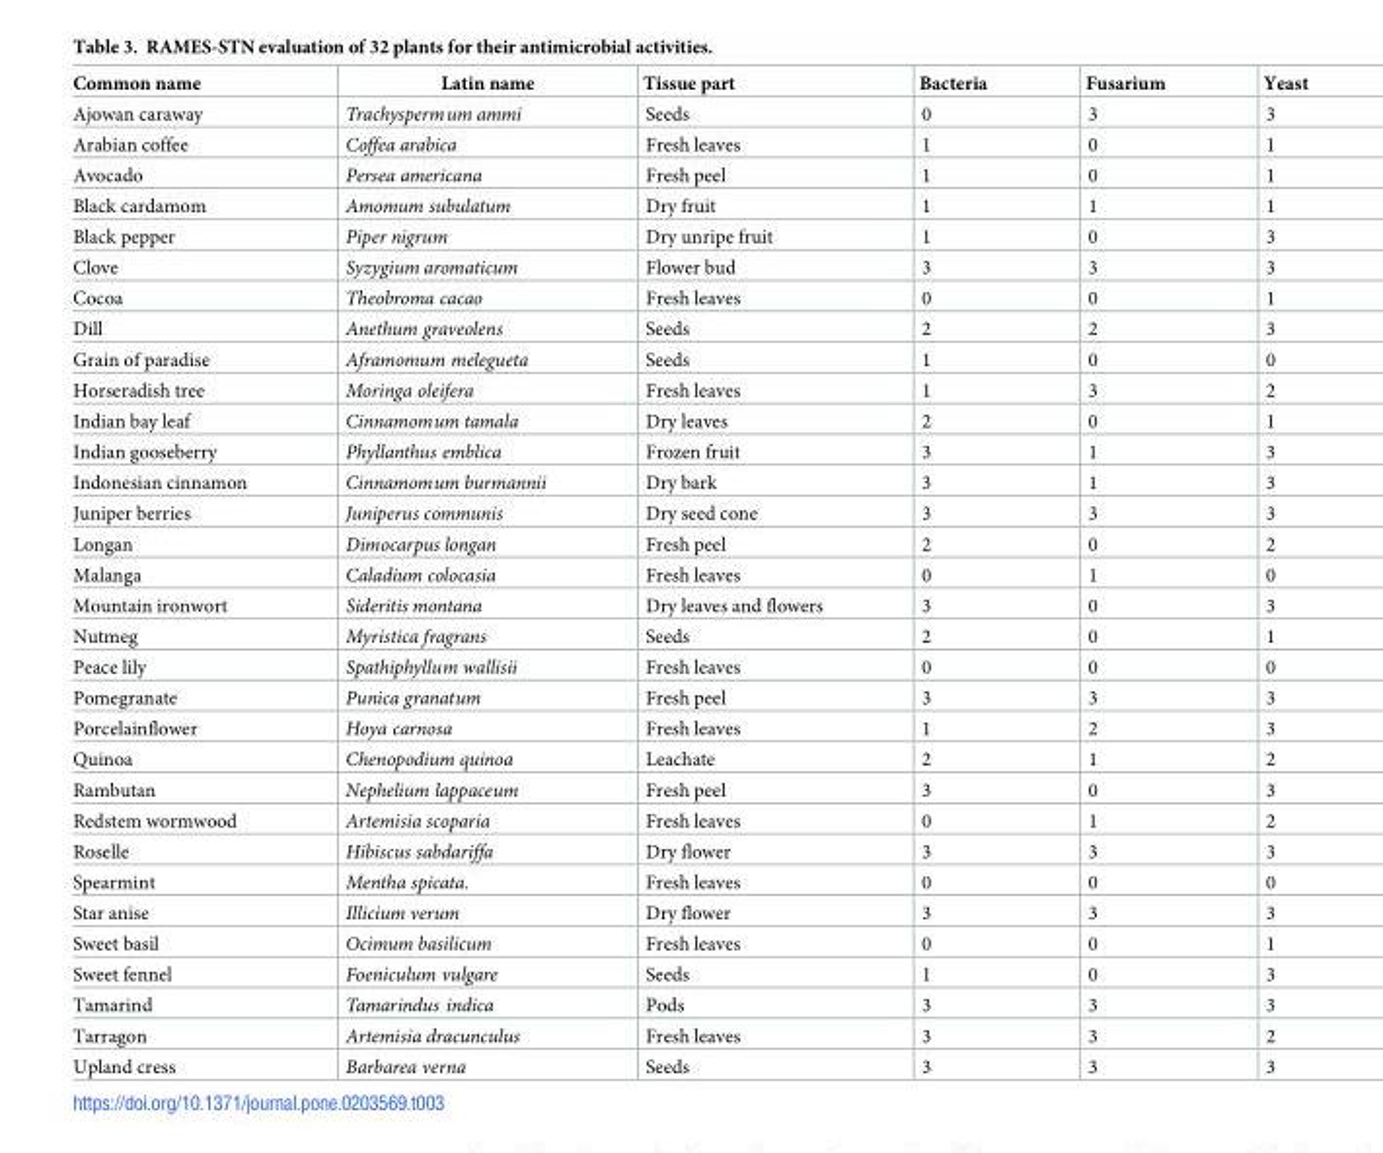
<table><thead><tr><td>Common name</td><td>Latin name</td><td>Tissue part</td><td>Bacteria</td><td>Fusarium</td><td>Yeast</td></tr></thead><tbody><tr><td>Ajowan caraway</td><td>Trachyspermum ammi</td><td>Seeds</td><td>0</td><td>3</td><td>3</td></tr><tr><td>Arabian coffee</td><td>Coffea arabica</td><td>Fresh leaves</td><td>1</td><td>0</td><td>1</td></tr><tr><td>Avocado</td><td>Persea americana</td><td>Fresh peel</td><td>1</td><td>0</td><td>1</td></tr><tr><td>Black cardamom</td><td>Amomum subulatum</td><td>Dry fruit</td><td>1</td><td>1</td><td>1</td></tr><tr><td>Black pepper</td><td>Piper nigrum</td><td>Dry unripe fruit</td><td>1</td><td>0</td><td>3</td></tr><tr><td>Clove</td><td>Syzygium aromaticum</td><td>Flower bud</td><td>3</td><td>3</td><td>3</td></tr><tr><td>Cocoa</td><td>Theobroma cacao</td><td>Fresh leaves</td><td>0</td><td>0</td><td>1</td></tr><tr><td>Dill</td><td>Anethum graveolens</td><td>Seeds</td><td>2</td><td>2</td><td>3</td></tr><tr><td>Grain of paradise</td><td>Aframomum melegueta</td><td>Seeds</td><td>1</td><td>0</td><td>0</td></tr><tr><td>Horseradish tree</td><td>Moringa oleifera</td><td>Fresh leaves</td><td>1</td><td>3</td><td>2</td></tr><tr><td>Indian bay leaf</td><td>Cinnamomum tamala</td><td>Dry leaves</td><td>2</td><td>0</td><td>1</td></tr><tr><td>Indian gooseberry</td><td>Phyllanthus emblica</td><td>Frozen fruit</td><td>3</td><td>1</td><td>3</td></tr><tr><td>Indonesian cinnamon</td><td>Cinnamomum burmannii</td><td>Dry bark</td><td>3</td><td>1</td><td>3</td></tr><tr><td>Juniper berries</td><td>Juniperus communis</td><td>Dry seed cone</td><td>3</td><td>3</td><td>3</td></tr><tr><td>Longan</td><td>Dimocarpus longan</td><td>Fresh peel</td><td>2</td><td>0</td><td>2</td></tr><tr><td>Malanga</td><td>Caladium colocasia</td><td>Fresh leaves</td><td>0</td><td>1</td><td>0</td></tr><tr><td>Mountain ironwort</td><td>Sideritis montana</td><td>Dry leaves and flowers</td><td>3</td><td>0</td><td>3</td></tr><tr><td>Nutmeg</td><td>Myristica fragrans</td><td>Seeds</td><td>2</td><td>0</td><td>1</td></tr><tr><td>Peace lily</td><td>Spathiphyllum wallisii</td><td>Fresh leaves</td><td>0</td><td>0</td><td>0</td></tr><tr><td>Pomegranate</td><td>Punica granatum</td><td>Fresh peel</td><td>3</td><td>3</td><td>3</td></tr><tr><td>Porcelainflower</td><td>Hoya carnosa</td><td>Fresh leaves</td><td>1</td><td>2</td><td>3</td></tr><tr><td>Quinoa</td><td>Chenopodium quinoa</td><td>Leachate</td><td>2</td><td>1</td><td>2</td></tr><tr><td>Rambutan</td><td>Nephelium lappaceum</td><td>Fresh peel</td><td>3</td><td>0</td><td>3</td></tr><tr><td>Redstem wormwood</td><td>Artemisia scoparia</td><td>Fresh leaves</td><td>0</td><td>1</td><td>2</td></tr><tr><td>Roselle</td><td>Hibiscus sabdariffa</td><td>Dry flower</td><td>3</td><td>3</td><td>3</td></tr><tr><td>Spearmint</td><td>Mentha spicata.</td><td>Fresh leaves</td><td>0</td><td>0</td><td>0</td></tr><tr><td>Star anise</td><td>Illicium verum</td><td>Dry flower</td><td>3</td><td>3</td><td>3</td></tr><tr><td>Sweet basil</td><td>Ocimum basilicum</td><td>Fresh leaves</td><td>0</td><td>0</td><td>1</td></tr><tr><td>Sweet fennel</td><td>Foeniculum vulgare</td><td>Seeds</td><td>1</td><td>0</td><td>3</td></tr><tr><td>Tamarind</td><td>Tamarindus indica</td><td>Pods</td><td>3</td><td>3</td><td>3</td></tr><tr><td>Tarragon</td><td>Artemisia dracunculus</td><td>Fresh leaves</td><td>3</td><td>3</td><td>2</td></tr><tr><td>Upland cress</td><td>Barbarea verna</td><td>Seeds</td><td>3</td><td>3</td><td>3</td></tr></tbody></table>